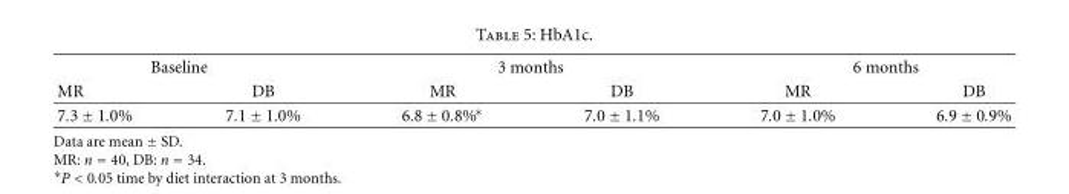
<table><thead><tr><td colspan="2">Baseline</td><td colspan="2">3 months</td><td colspan="2">6 months</td></tr><tr><td>MR</td><td>DB</td><td>MR</td><td>DB</td><td>MR</td><td>DB</td></tr></thead><tbody><tr><td>7.3 ± 1.0%</td><td>7.1 ± 1.0%</td><td>6.8 ± 0.8%∗</td><td>7.0 ± 1.1%</td><td>7.0 ± 1.0%</td><td>6.9 ± 0.9%</td></tr></tbody></table>